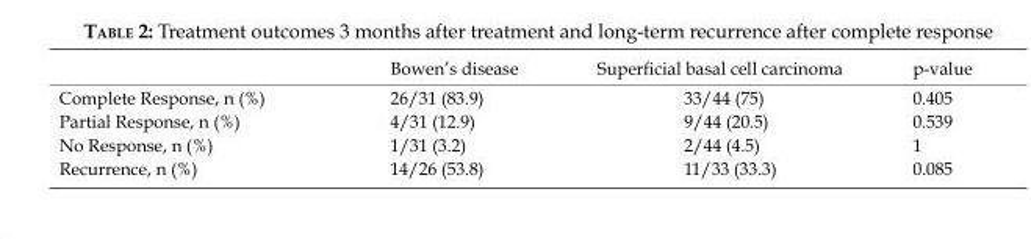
<table><thead><tr><td></td><td>Bowen’s disease</td><td>Superficial basal cell carcinoma</td><td>p-value</td></tr></thead><tbody><tr><td>Complete Response, n (%)</td><td>26/31 (83.9)</td><td>33/44 (75)</td><td>0.405</td></tr><tr><td>Partial Response, n (%)</td><td>4/31 (12.9)</td><td>9/44 (20.5)</td><td>0.539</td></tr><tr><td>No Response, n (%)</td><td>1/31 (3.2)</td><td>2/44 (4.5)</td><td>1</td></tr><tr><td>Recurrence, n (%)</td><td>14/26 (53.8)</td><td>11/33 (33.3)</td><td>0.085</td></tr></tbody></table>